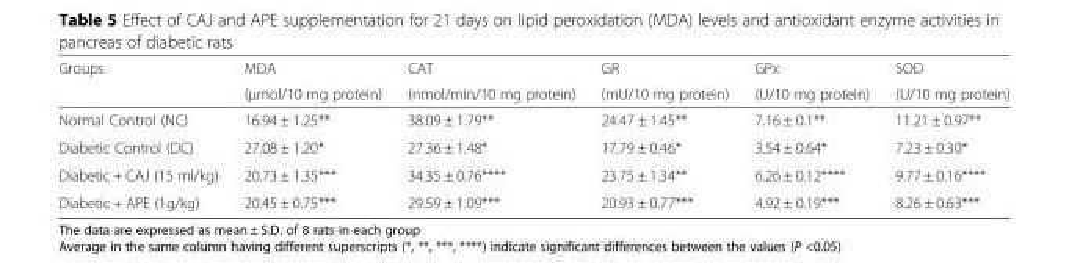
<table><thead><tr><td rowspan="2">Groups</td><td rowspan="2">MDA (μmol/10 mg protein)</td><td rowspan="2">CAT (nmol/min/10 mg protein)</td><td rowspan="2">GR (mU/10 mg protein)</td><td rowspan="2">GPx (U/10 mg protein)</td><td rowspan="2">SOD (U/10 mg protein)</td></tr><tr></tr></thead><tbody><tr><td>Normal Control (NC)</td><td>16.94 ± 1.25**</td><td>38.09 ± 1.79**</td><td>24.47 ± 1.45**</td><td>7.16 ± 0.1**</td><td>11.21 ± 0.97**</td></tr><tr><td>Diabetic Control (DC)</td><td>27.08 ± 1.20*</td><td>27.36 ± 1.48*</td><td>17.79 ± 0.46*</td><td>3.54 ± 0.64*</td><td>7.23 ± 0.30*</td></tr><tr><td>Diabetic + CAJ (15 ml/kg)</td><td>20.73 ± 1.35***</td><td>34.35 ± 0.76****</td><td>23.75 ± 1.34**</td><td>6.26 ± 0.12****</td><td>9.77 ± 0.16****</td></tr><tr><td>Diabetic + APE (1g/kg)</td><td>20.45 ± 0.75***</td><td>29.59 ± 1.09***</td><td>20.93 ± 0.77***</td><td>4.92 ± 0.19***</td><td>8.26 ± 0.63***</td></tr></tbody></table>